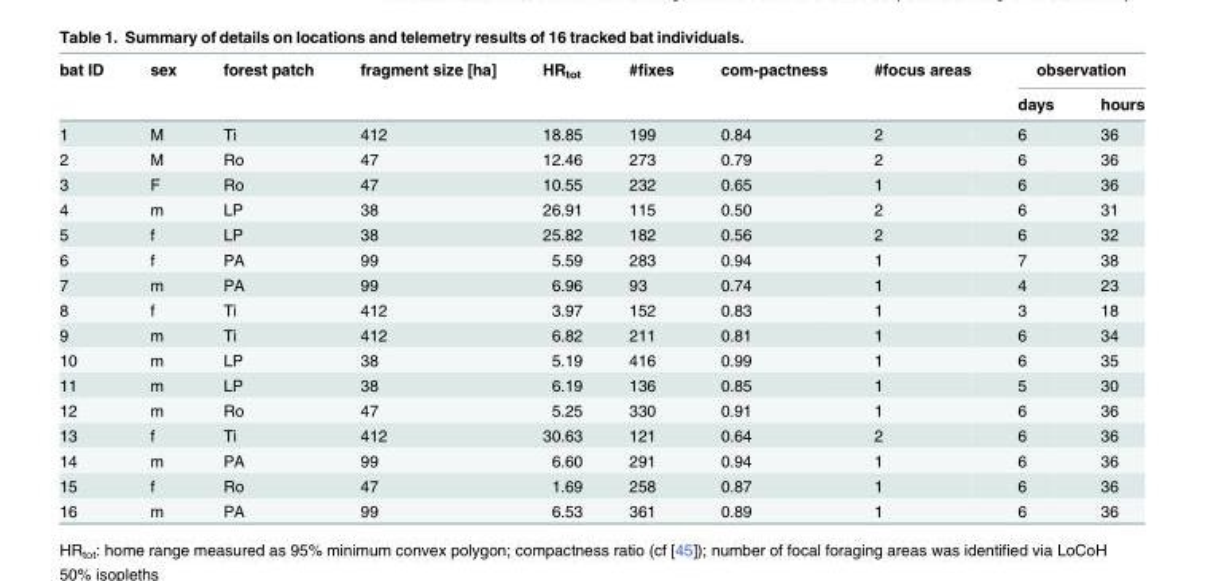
<table><thead><tr><td rowspan="2">bat ID</td><td rowspan="2">sex</td><td rowspan="2">forest patch</td><td rowspan="2">fragment size [ha]</td><td rowspan="2">HR<sub>tot</sub></td><td rowspan="2">#fixes</td><td rowspan="2">com-pactness</td><td rowspan="2">#focus areas</td><td colspan="2">observation</td></tr><tr><td>days</td><td>hours</td></tr></thead><tbody><tr><td>1</td><td>M</td><td>Ti</td><td>412</td><td>18.85</td><td>199</td><td>0.84</td><td>2</td><td>6</td><td>36</td></tr><tr><td>2</td><td>M</td><td>Ro</td><td>47</td><td>12.46</td><td>273</td><td>0.79</td><td>2</td><td>6</td><td>36</td></tr><tr><td>3</td><td>F</td><td>Ro</td><td>47</td><td>10.55</td><td>232</td><td>0.65</td><td>1</td><td>6</td><td>36</td></tr><tr><td>4</td><td>m</td><td>LP</td><td>38</td><td>26.91</td><td>115</td><td>0.50</td><td>2</td><td>6</td><td>31</td></tr><tr><td>5</td><td>f</td><td>LP</td><td>38</td><td>25.82</td><td>182</td><td>0.56</td><td>2</td><td>6</td><td>32</td></tr><tr><td>6</td><td>f</td><td>PA</td><td>99</td><td>5.59</td><td>283</td><td>0.94</td><td>1</td><td>7</td><td>38</td></tr><tr><td>7</td><td>m</td><td>PA</td><td>99</td><td>6.96</td><td>93</td><td>0.74</td><td>1</td><td>4</td><td>23</td></tr><tr><td>8</td><td>f</td><td>Ti</td><td>412</td><td>3.97</td><td>152</td><td>0.83</td><td>1</td><td>3</td><td>18</td></tr><tr><td>9</td><td>m</td><td>Ti</td><td>412</td><td>6.82</td><td>211</td><td>0.81</td><td>1</td><td>6</td><td>34</td></tr><tr><td>10</td><td>m</td><td>LP</td><td>38</td><td>5.19</td><td>416</td><td>0.99</td><td>1</td><td>6</td><td>35</td></tr><tr><td>11</td><td>m</td><td>LP</td><td>38</td><td>6.19</td><td>136</td><td>0.85</td><td>1</td><td>5</td><td>30</td></tr><tr><td>12</td><td>m</td><td>Ro</td><td>47</td><td>5.25</td><td>330</td><td>0.91</td><td>1</td><td>6</td><td>36</td></tr><tr><td>13</td><td>f</td><td>Ti</td><td>412</td><td>30.63</td><td>121</td><td>0.64</td><td>2</td><td>6</td><td>36</td></tr><tr><td>14</td><td>m</td><td>PA</td><td>99</td><td>6.60</td><td>291</td><td>0.94</td><td>1</td><td>6</td><td>36</td></tr><tr><td>15</td><td>f</td><td>Ro</td><td>47</td><td>1.69</td><td>258</td><td>0.87</td><td>1</td><td>6</td><td>36</td></tr><tr><td>16</td><td>m</td><td>PA</td><td>99</td><td>6.53</td><td>361</td><td>0.89</td><td>1</td><td>6</td><td>36</td></tr></tbody></table>